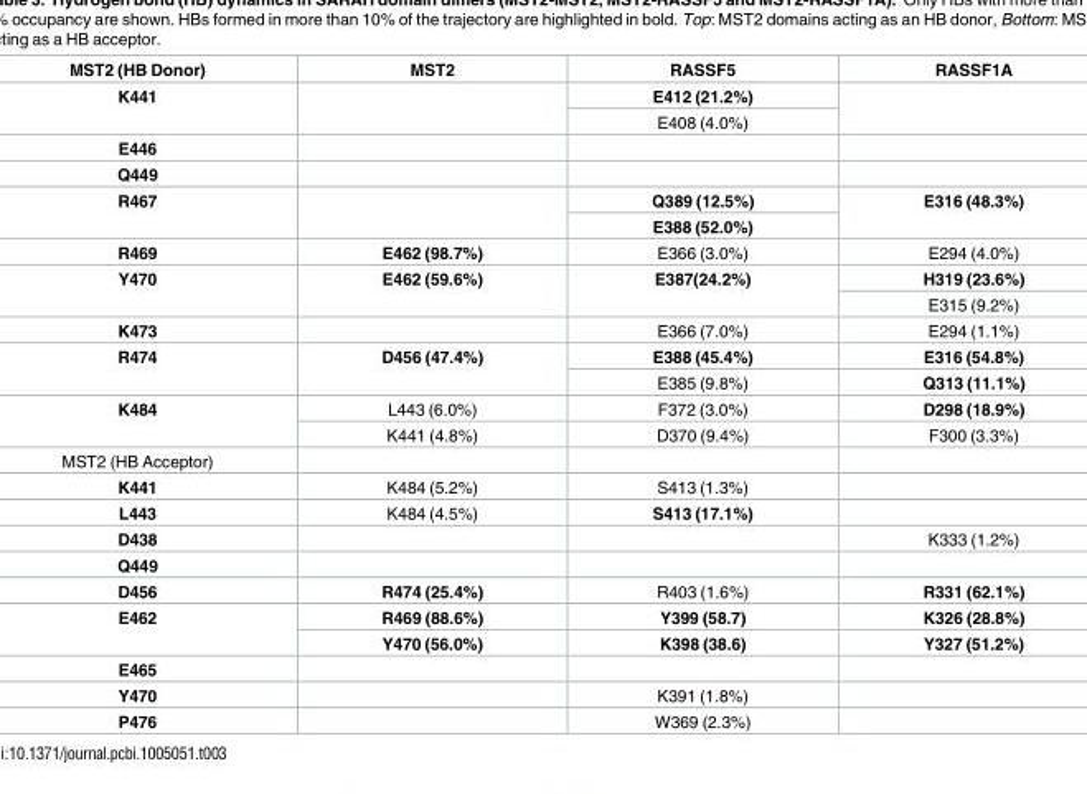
<table><thead><tr><td>MST2 (HB Donor)</td><td>MST2</td><td>RASSF5</td><td>RASSF1A</td></tr></thead><tbody><tr><td rowspan="2">K441</td><td rowspan="2"></td><td>E412 (21.2%)</td><td rowspan="2"></td></tr><tr><td>E408 (4.0%)</td></tr><tr><td colspan="4">E446</td></tr><tr><td colspan="4">Q449</td></tr><tr><td rowspan="2">R467</td><td rowspan="2"></td><td>Q389 (12.5%)</td><td rowspan="2">E316 (48.3%)</td></tr><tr><td>E388 (52.0%)</td></tr><tr><td>R469</td><td>E462 (98.7%)</td><td>E366 (3.0%)</td><td>E294 (4.0%)</td></tr><tr><td rowspan="2">Y470</td><td rowspan="2">E462 (59.6%)</td><td rowspan="2">E387(24.2%)</td><td>H319 (23.6%)</td></tr><tr><td>E315 (9.2%)</td></tr><tr><td>K473</td><td></td><td>E366 (7.0%)</td><td>E294 (1.1%)</td></tr><tr><td rowspan="2">R474</td><td rowspan="2">D456 (47.4%)</td><td>E388 (45.4%)</td><td>E316 (54.8%)</td></tr><tr><td>E385 (9.8%)</td><td>Q313 (11.1%)</td></tr><tr><td rowspan="2">K484</td><td>L443 (6.0%)</td><td>F372 (3.0%)</td><td>D298 (18.9%)</td></tr><tr><td>K441 (4.8%)</td><td>D370 (9.4%)</td><td>F300 (3.3%)</td></tr><tr><td colspan="4">MST2 (HB Acceptor)</td></tr><tr><td>K441</td><td>K484 (5.2%)</td><td>S413 (1.3%)</td><td></td></tr><tr><td>L443</td><td>K484 (4.5%)</td><td>S413 (17.1%)</td><td></td></tr><tr><td>D438</td><td></td><td></td><td>K333 (1.2%)</td></tr><tr><td colspan="4">Q449</td></tr><tr><td>D456</td><td>R474 (25.4%)</td><td>R403 (1.6%)</td><td>R331 (62.1%)</td></tr><tr><td rowspan="2">E462</td><td>R469 (88.6%)</td><td>Y399 (58.7)</td><td>K326 (28.8%)</td></tr><tr><td>Y470 (56.0%)</td><td>K398 (38.6)</td><td>Y327 (51.2%)</td></tr><tr><td colspan="4">E465</td></tr><tr><td>Y470</td><td></td><td>K391 (1.8%)</td><td></td></tr><tr><td>P476</td><td></td><td>W369 (2.3%)</td><td></td></tr></tbody></table>